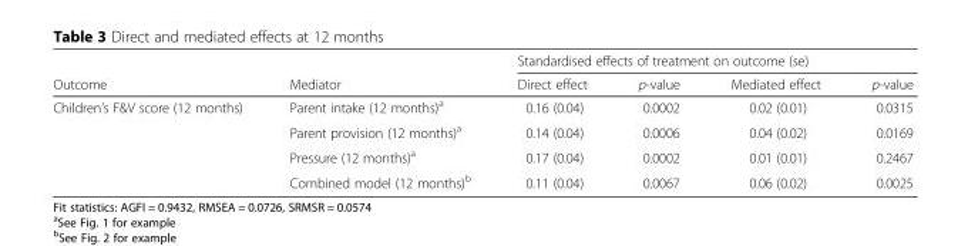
<table><thead><tr><td rowspan="2">Outcome</td><td rowspan="2">Mediator</td><td colspan="4">Standardised effects of treatment on outcome (se)</td></tr><tr><td>Direct effect</td><td>p-value</td><td>Mediated effect</td><td>p-value</td></tr></thead><tbody><tr><td rowspan="4">Children’s F&amp;V score (12 months)</td><td>Parent intake (12 months)<sup>a</sup></td><td>0.16 (0.04)</td><td>0.0002</td><td>0.02 (0.01)</td><td>0.0315</td></tr><tr><td>Parent provision (12 months)<sup>a</sup></td><td>0.14 (0.04)</td><td>0.0006</td><td>0.04 (0.02)</td><td>0.0169</td></tr><tr><td>Pressure (12 months)<sup>a</sup></td><td>0.17 (0.04)</td><td>0.0002</td><td>0.01 (0.01)</td><td>0.2467</td></tr><tr><td>Combined model (12 months)<sup>b</sup></td><td>0.11 (0.04)</td><td>0.0067</td><td>0.06 (0.02)</td><td>0.0025</td></tr></tbody></table>